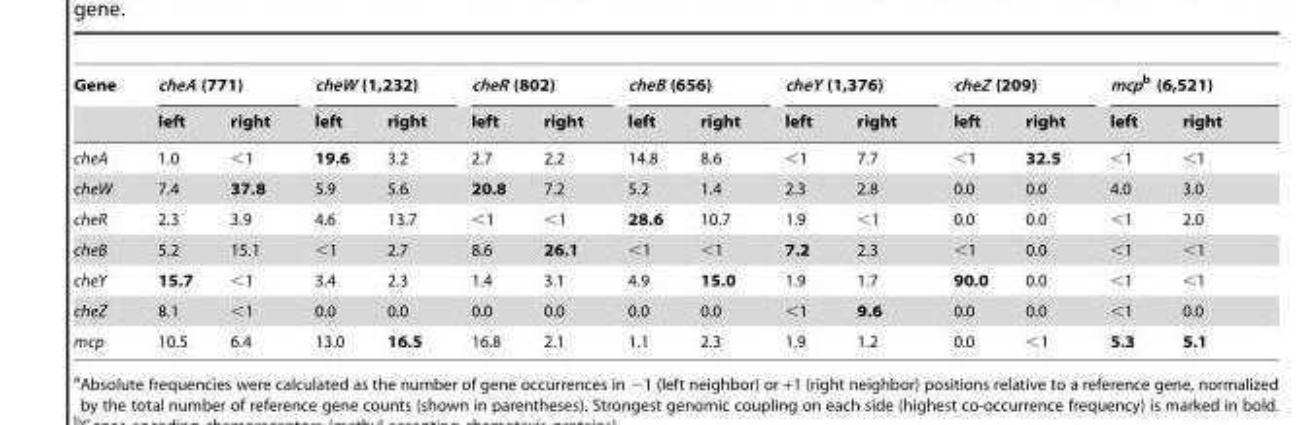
<table><thead><tr><td rowspan="2">Gene</td><td colspan="2">cheA (771)</td><td colspan="2">cheW (1,232)</td><td colspan="2">cheR (802)</td><td colspan="2">cheB (656)</td><td colspan="2">cheY (1,376)</td><td colspan="2">cheZ (209)</td><td colspan="2">mcpb (6,521)</td></tr><tr><td>left</td><td>right</td><td>left</td><td>right</td><td>left</td><td>right</td><td>left</td><td>right</td><td>left</td><td>right</td><td>left</td><td>right</td><td>left</td><td>right</td></tr></thead><tbody><tr><td>cheA</td><td>1.0</td><td>&lt;1</td><td>19.6</td><td>3.2</td><td>2.7</td><td>2.2</td><td>14.8</td><td>8.6</td><td>&lt;1</td><td>7.7</td><td>&lt;1</td><td>32.5</td><td>&lt;1</td><td>&lt;1</td></tr><tr><td>cheW</td><td>7.4</td><td>37.8</td><td>5.9</td><td>5.6</td><td>20.8</td><td>7.2</td><td>5.2</td><td>1.4</td><td>2.3</td><td>2.8</td><td>0.0</td><td>0.0</td><td>4.0</td><td>3.0</td></tr><tr><td>cheR</td><td>2.3</td><td>3.9</td><td>4.6</td><td>13.7</td><td>&lt;1</td><td>&lt;1</td><td>28.6</td><td>10.7</td><td>1.9</td><td>&lt;1</td><td>0.0</td><td>0.0</td><td>&lt;1</td><td>2.0</td></tr><tr><td>cheB</td><td>5.2</td><td>15.1</td><td>&lt;1</td><td>2.7</td><td>8.6</td><td>26.1</td><td>&lt;1</td><td>&lt;1</td><td>7.2</td><td>2.3</td><td>&lt;1</td><td>0.0</td><td>&lt;1</td><td>&lt;1</td></tr><tr><td>cheY</td><td>15.7</td><td>&lt;1</td><td>3.4</td><td>2.3</td><td>1.4</td><td>3.1</td><td>4.9</td><td>15.0</td><td>1.9</td><td>1.7</td><td>90.0</td><td>0.0</td><td>&lt;1</td><td>&lt;1</td></tr><tr><td>cheZ</td><td>8.1</td><td>&lt;1</td><td>0.0</td><td>0.0</td><td>0.0</td><td>0.0</td><td>0.0</td><td>0.0</td><td>&lt;1</td><td>9.6</td><td>0.0</td><td>0.0</td><td>&lt;1</td><td>0.0</td></tr><tr><td>mcp</td><td>10.5</td><td>6.4</td><td>13.0</td><td>16.5</td><td>16.8</td><td>2.1</td><td>1.1</td><td>2.3</td><td>1.9</td><td>1.2</td><td>0.0</td><td>&lt;1</td><td>5.3</td><td>5.1</td></tr></tbody></table>